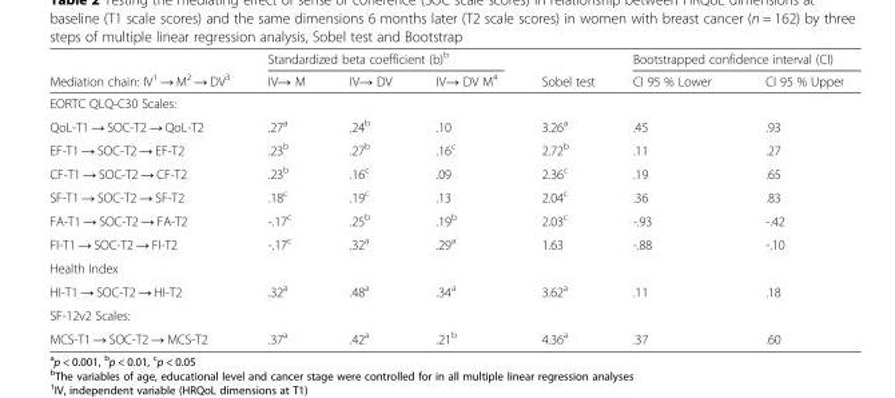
<table><thead><tr><td rowspan="2">Mediation chain: IV<sup>1</sup> → M<sup>2</sup> → DV<sup>3</sup></td><td colspan="3">Standardized beta coefficient (b)<sup>b</sup></td><td rowspan="2">Sobel test</td><td colspan="2">Bootstrapped confidence interval (CI)</td></tr><tr><td>IV→ M</td><td>IV→ DV</td><td>IV→ DV M<sup>4</sup></td><td>CI 95 % Lower</td><td>CI 95 % Upper</td></tr></thead><tbody><tr><td colspan="7">EORTC QLQ-C30 Scales:</td></tr><tr><td>QoL-T1 → SOC-T2 → QoL-T2</td><td>.27<sup>a</sup></td><td>.24<sup>b</sup></td><td>.10</td><td>3.26<sup>a</sup></td><td>.45</td><td>.93</td></tr><tr><td>EF-T1 → SOC-T2 → EF-T2</td><td>.23<sup>b</sup></td><td>.27<sup>b</sup></td><td>.16<sup>c</sup></td><td>2.72<sup>b</sup></td><td>.11</td><td>.27</td></tr><tr><td>CF-T1 → SOC-T2 → CF-T2</td><td>.23<sup>b</sup></td><td>.16<sup>c</sup></td><td>.09</td><td>2.36<sup>c</sup></td><td>.19</td><td>.65</td></tr><tr><td>SF-T1 → SOC-T2 → SF-T2</td><td>.18<sup>c</sup></td><td>.19<sup>c</sup></td><td>.13</td><td>2.04<sup>c</sup></td><td>.36</td><td>.83</td></tr><tr><td>FA-T1 → SOC-T2 → FA-T2</td><td>-.17<sup>c</sup></td><td>.25<sup>b</sup></td><td>.19<sup>b</sup></td><td>2.03<sup>c</sup></td><td>-.93</td><td>-.42</td></tr><tr><td>FI-T1 → SOC-T2 → FI-T2</td><td>-.17<sup>c</sup></td><td>.32<sup>a</sup></td><td>.29<sup>a</sup></td><td>1.63</td><td>-.88</td><td>-.10</td></tr><tr><td colspan="7">Health Index</td></tr><tr><td>HI-T1 → SOC-T2 → HI-T2</td><td>.32<sup>a</sup></td><td>.48<sup>a</sup></td><td>.34<sup>a</sup></td><td>3.62<sup>a</sup></td><td>.11</td><td>.18</td></tr><tr><td colspan="7">SF-12v2 Scales:</td></tr><tr><td>MCS-T1 → SOC-T2 → MCS-T2</td><td>.37<sup>a</sup></td><td>.42<sup>a</sup></td><td>.21<sup>b</sup></td><td>4.36<sup>a</sup></td><td>.37</td><td>.60</td></tr></tbody></table>